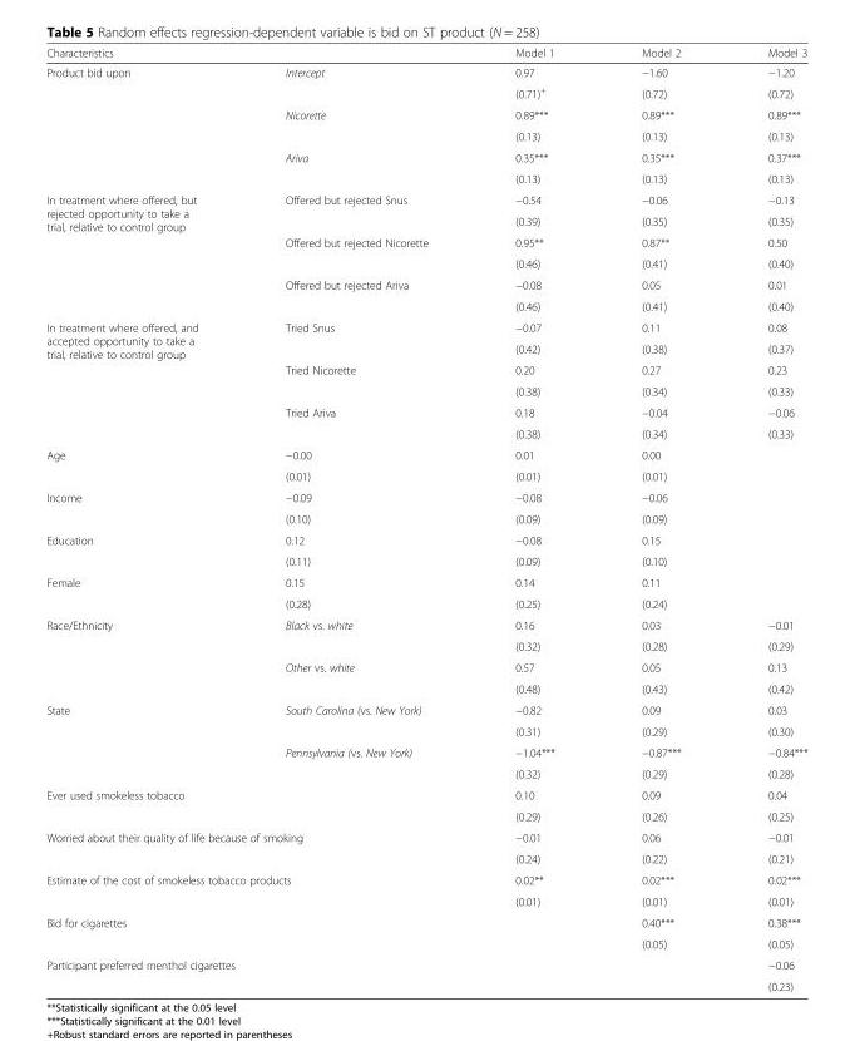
<table><thead><tr><td>Characteristics</td><td></td><td>Model 1</td><td>Model 2</td><td>Model 3</td></tr></thead><tbody><tr><td rowspan="6">Product bid upon</td><td rowspan="2">Intercept</td><td>0.97</td><td>−1.60</td><td>−1.20</td></tr><tr><td>(0.71)<sup>+</sup></td><td>(0.72)</td><td>(0.72)</td></tr><tr><td rowspan="2">Nicorette</td><td>0.89***</td><td>0.89***</td><td>0.89***</td></tr><tr><td>(0.13)</td><td>(0.13)</td><td>(0.13)</td></tr><tr><td rowspan="2">Ariva</td><td>0.35***</td><td>0.35***</td><td>0.37***</td></tr><tr><td>(0.13)</td><td>(0.13)</td><td>(0.13)</td></tr><tr><td rowspan="6">In treatment where offered, but rejected opportunity to take a trial, relative to control group</td><td rowspan="2">Offered but rejected Snus</td><td>−0.54</td><td>−0.06</td><td>−0.13</td></tr><tr><td>(0.39)</td><td>(0.35)</td><td>(0.35)</td></tr><tr><td rowspan="2">Offered but rejected Nicorette</td><td>0.95**</td><td>0.87**</td><td>0.50</td></tr><tr><td>(0.46)</td><td>(0.41)</td><td>(0.40)</td></tr><tr><td rowspan="2">Offered but rejected Ariva</td><td>−0.08</td><td>0.05</td><td>0.01</td></tr><tr><td>(0.46)</td><td>(0.41)</td><td>(0.40)</td></tr><tr><td rowspan="6">In treatment where offered, and accepted opportunity to take a trial, relative to control group</td><td rowspan="2">Tried Snus</td><td>−0.07</td><td>0.11</td><td>0.08</td></tr><tr><td>(0.42)</td><td>(0.38)</td><td>(0.37)</td></tr><tr><td rowspan="2">Tried Nicorette</td><td>0.20</td><td>0.27</td><td>0.23</td></tr><tr><td>(0.38)</td><td>(0.34)</td><td>(0.33)</td></tr><tr><td rowspan="2">Tried Ariva</td><td>0.18</td><td>−0.04</td><td>−0.06</td></tr><tr><td>(0.38)</td><td>(0.34)</td><td>(0.33)</td></tr><tr><td rowspan="2">Age</td><td>−0.00</td><td>0.01</td><td>0.00</td><td></td></tr><tr><td>(0.01)</td><td>(0.01)</td><td>(0.01)</td><td></td></tr><tr><td rowspan="2">Income</td><td>−0.09</td><td>−0.08</td><td>−0.06</td><td></td></tr><tr><td>(0.10)</td><td>(0.09)</td><td>(0.09)</td><td></td></tr><tr><td rowspan="2">Education</td><td>0.12</td><td>−0.08</td><td>0.15</td><td></td></tr><tr><td>(0.11)</td><td>(0.09)</td><td>(0.10)</td><td></td></tr><tr><td rowspan="2">Female</td><td>0.15</td><td>0.14</td><td>0.11</td><td></td></tr><tr><td>(0.28)</td><td>(0.25)</td><td>(0.24)</td><td></td></tr><tr><td rowspan="4">Race/Ethnicity</td><td rowspan="2">Black vs. white</td><td>0.16</td><td>0.03</td><td>−0.01</td></tr><tr><td>(0.32)</td><td>(0.28)</td><td>(0.29)</td></tr><tr><td rowspan="2">Other vs. white</td><td>0.57</td><td>0.05</td><td>0.13</td></tr><tr><td>(0.48)</td><td>(0.43)</td><td>(0.42)</td></tr><tr><td rowspan="4">State</td><td rowspan="2">South Carolina (vs. New York)</td><td>−0.82</td><td>0.09</td><td>0.03</td></tr><tr><td>(0.31)</td><td>(0.29)</td><td>(0.30)</td></tr><tr><td rowspan="2">Pennsylvania (vs. New York)</td><td>−1.04***</td><td>−0.87***</td><td>−0.84***</td></tr><tr><td>(0.32)</td><td>(0.29)</td><td>(0.28)</td></tr><tr><td rowspan="2" colspan="2">Ever used smokeless tobacco</td><td>0.10</td><td>0.09</td><td>0.04</td></tr><tr><td>(0.29)</td><td>(0.26)</td><td>(0.25)</td></tr><tr><td rowspan="2" colspan="2">Worried about their quality of life because of smoking</td><td>−0.01</td><td>0.06</td><td>−0.01</td></tr><tr><td>(0.24)</td><td>(0.22)</td><td>(0.21)</td></tr><tr><td rowspan="2" colspan="2">Estimate of the cost of smokeless tobacco products</td><td>0.02**</td><td>0.02***</td><td>0.02***</td></tr><tr><td>(0.01)</td><td>(0.01)</td><td>(0.01)</td></tr><tr><td rowspan="2" colspan="2">Bid for cigarettes</td><td></td><td>0.40***</td><td>0.38***</td></tr><tr><td></td><td>(0.05)</td><td>(0.05)</td></tr><tr><td rowspan="2" colspan="2">Participant preferred menthol cigarettes</td><td rowspan="2"></td><td></td><td>−0.06</td></tr><tr><td></td><td>(0.23)</td></tr></tbody></table>